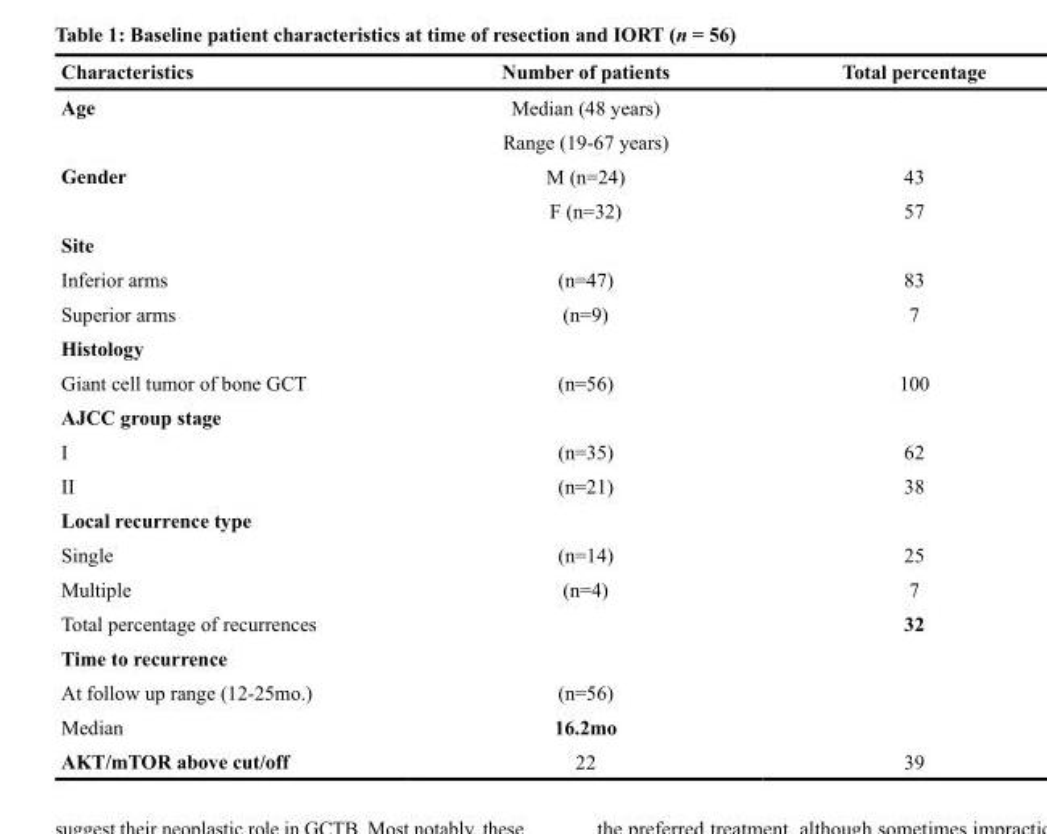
<table><thead><tr><td>Characteristics</td><td>Number of patients</td><td>Total percentage</td></tr></thead><tbody><tr><td rowspan="2">Age</td><td>Median (48 years)</td><td></td></tr><tr><td>Range (19-67 years)</td><td></td></tr><tr><td rowspan="2">Gender</td><td>M (n=24)</td><td>43</td></tr><tr><td>F (n=32)</td><td>57</td></tr><tr><td colspan="3">Site</td></tr><tr><td>Inferior arms</td><td>(n=47)</td><td>83</td></tr><tr><td>Superior arms</td><td>(n=9)</td><td>7</td></tr><tr><td colspan="3">Histology</td></tr><tr><td>Giant cell tumor of bone GCT</td><td>(n=56)</td><td>100</td></tr><tr><td colspan="3">AJCC group stage</td></tr><tr><td>I</td><td>(n=35)</td><td>62</td></tr><tr><td>II</td><td>(n=21)</td><td>38</td></tr><tr><td colspan="3">Local recurrence type</td></tr><tr><td>Single</td><td>(n=14)</td><td>25</td></tr><tr><td>Multiple</td><td>(n=4)</td><td>7</td></tr><tr><td>Total percentage of recurrences</td><td></td><td>32</td></tr><tr><td colspan="3">Time to recurrence</td></tr><tr><td>At follow up range (12-25mo.)</td><td>(n=56)</td><td></td></tr><tr><td>Median</td><td>16.2mo</td><td></td></tr><tr><td>AKT/mTOR above cut/off</td><td>22</td><td>39</td></tr></tbody></table>